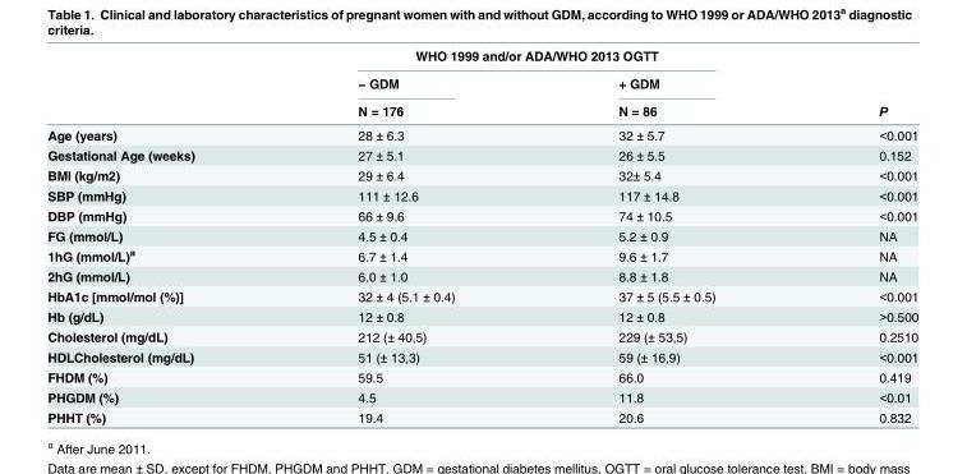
<table><thead><tr><td rowspan="3"></td><td colspan="2">WHO 1999 and/or ADA/WHO 2013 OGTT</td><td rowspan="3">P</td></tr><tr><td rowspan="2">− GDM N = 176</td><td rowspan="2">+ GDM N = 86</td></tr><tr></tr></thead><tbody><tr><td>Age (years)</td><td>28 ± 6.3</td><td>32 ± 5.7</td><td>&lt;0.001</td></tr><tr><td>Gestational Age (weeks)</td><td>27 ± 5.1</td><td>26 ± 5.5</td><td>0.152</td></tr><tr><td>BMI (kg/m2)</td><td>29 ± 6.4</td><td>32± 5.4</td><td>&lt;0.001</td></tr><tr><td>SBP (mmHg)</td><td>111 ± 12.6</td><td>117 ± 14.8</td><td>&lt;0.001</td></tr><tr><td>DBP (mmHg)</td><td>66 ± 9.6</td><td>74 ± 10.5</td><td>&lt;0.001</td></tr><tr><td>FG (mmol/L)</td><td>4.5 ± 0.4</td><td>5.2 ± 0.9</td><td>NA</td></tr><tr><td>1hG (mmol/L)<sup>a</sup></td><td>6.7 ± 1.4</td><td>9.6 ± 1.7</td><td>NA</td></tr><tr><td>2hG (mmol/L)</td><td>6.0 ± 1.0</td><td>8.8 ± 1.8</td><td>NA</td></tr><tr><td>HbA1c [mmol/mol (%)]</td><td>32 ± 4 (5.1 ± 0.4)</td><td>37 ± 5 (5.5 ± 0.5)</td><td>&lt;0.001</td></tr><tr><td>Hb (g/dL)</td><td>12 ± 0.8</td><td>12 ± 0.8</td><td>&gt;0.500</td></tr><tr><td>Cholesterol (mg/dL)</td><td>212 (± 40,5)</td><td>229 (± 53,5)</td><td>0.2510</td></tr><tr><td>HDLCholesterol (mg/dL)</td><td>51 (± 13,3)</td><td>59 (± 16,9)</td><td>&lt;0.001</td></tr><tr><td>FHDM (%)</td><td>59.5</td><td>66.0</td><td>0.419</td></tr><tr><td>PHGDM (%)</td><td>4.5</td><td>11.8</td><td>&lt;0.01</td></tr><tr><td>PHHT (%)</td><td>19.4</td><td>20.6</td><td>0.832</td></tr></tbody></table>